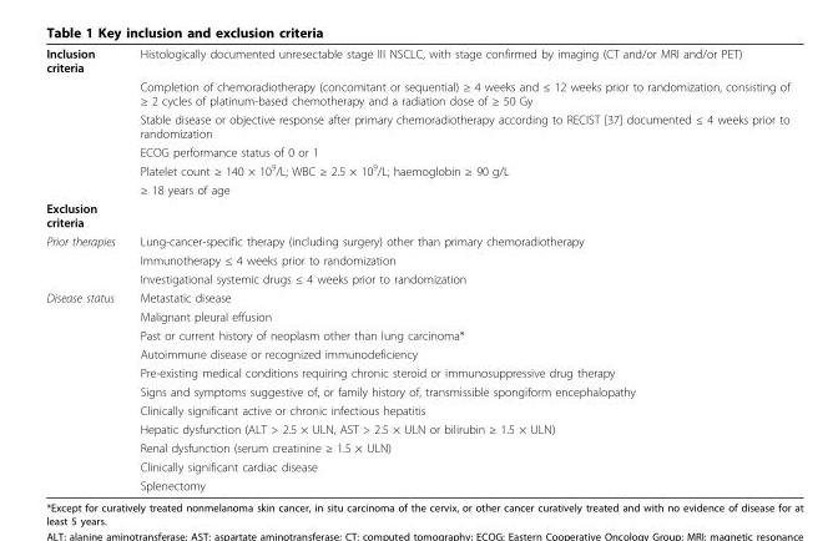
<table><tbody><tr><td rowspan="6">Inclusion criteria</td><td>Histologically documented unresectable stage III NSCLC, with stage confirmed by imaging (CT and/or MRI and/or PET)</td></tr><tr><td>Completion of chemoradiotherapy (concomitant or sequential) ≥ 4 weeks and ≤ 12 weeks prior to randomization, consisting of ≥ 2 cycles of platinum-based chemotherapy and a radiation dose of ≥ 50 Gy</td></tr><tr><td>Stable disease or objective response after primary chemoradiotherapy according to RECIST [37] documented ≤ 4 weeks prior to randomization</td></tr><tr><td>ECOG performance status of 0 or 1</td></tr><tr><td>Platelet count ≥ 140 × 10<sup>9</sup>/L; WBC ≥ 2.5 × 10<sup>9</sup>/L; haemoglobin ≥ 90 g/L</td></tr><tr><td>≥ 18 years of age</td></tr><tr><td colspan="2">Exclusion criteria</td></tr><tr><td rowspan="3">Prior therapies</td><td>Lung-cancer-specific therapy (including surgery) other than primary chemoradiotherapy</td></tr><tr><td>Immunotherapy ≤ 4 weeks prior to randomization</td></tr><tr><td>Investigational systemic drugs ≤ 4 weeks prior to randomization</td></tr><tr><td rowspan="11">Disease status</td><td>Metastatic disease</td></tr><tr><td>Malignant pleural effusion</td></tr><tr><td>Past or current history of neoplasm other than lung carcinoma*</td></tr><tr><td>Autoimmune disease or recognized immunodeficiency</td></tr><tr><td>Pre-existing medical conditions requiring chronic steroid or immunosuppressive drug therapy</td></tr><tr><td>Signs and symptoms suggestive of, or family history of, transmissible spongiform encephalopathy</td></tr><tr><td>Clinically significant active or chronic infectious hepatitis</td></tr><tr><td>Hepatic dysfunction (ALT &gt; 2.5 × ULN, AST &gt; 2.5 × ULN or bilirubin ≥ 1.5 × ULN)</td></tr><tr><td>Renal dysfunction (serum creatinine ≥ 1.5 × ULN)</td></tr><tr><td>Clinically significant cardiac disease</td></tr><tr><td>Splenectomy</td></tr></tbody></table>